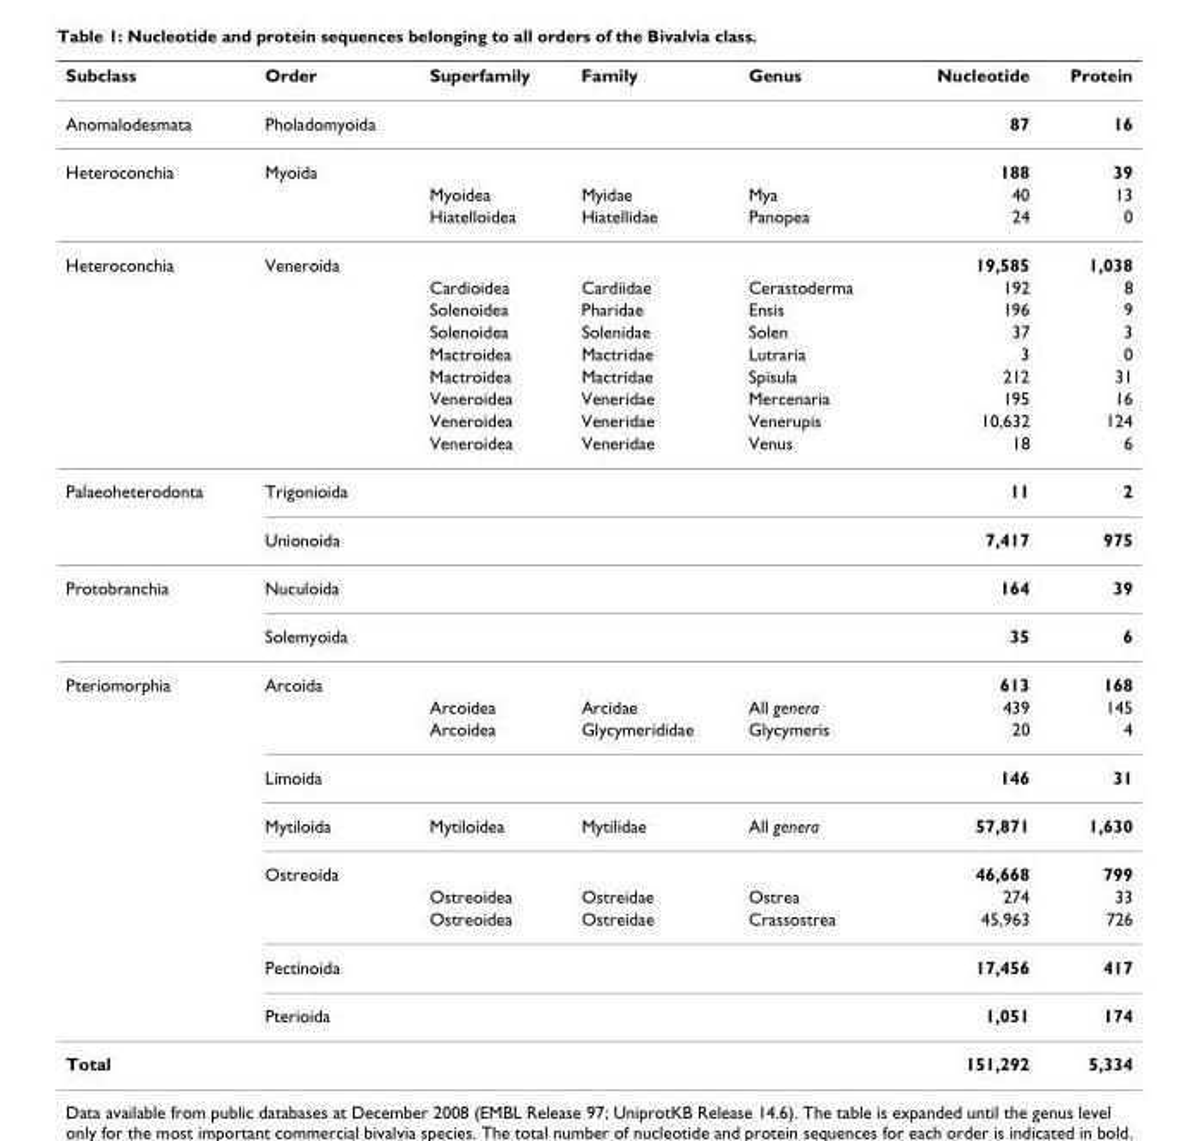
<table><thead><tr><td>Subclass</td><td>Order</td><td>Superfamily</td><td>Family</td><td>Genus</td><td>Nucleotide</td><td>Protein</td></tr></thead><tbody><tr><td>Anomalodesmata</td><td>Pholadomyoida</td><td></td><td></td><td></td><td>87</td><td>16</td></tr><tr><td rowspan="3">Heteroconchia</td><td>Myoida</td><td></td><td></td><td></td><td>188</td><td>39</td></tr><tr><td></td><td>Myoidea</td><td>Myidae</td><td>Mya</td><td>40</td><td>13</td></tr><tr><td></td><td>Hiatelloidea</td><td>Hiatellidae</td><td>Panopea</td><td>24</td><td>0</td></tr><tr><td rowspan="9">Heteroconchia</td><td>Veneroida</td><td></td><td></td><td></td><td>19,585</td><td>1,038</td></tr><tr><td></td><td>Cardioidea</td><td>Cardiidae</td><td>Cerastoderma</td><td>192</td><td>8</td></tr><tr><td></td><td>Solenoidea</td><td>Pharidae</td><td>Ensis</td><td>196</td><td>9</td></tr><tr><td></td><td>Solenoidea</td><td>Solenidae</td><td>Solen</td><td>37</td><td>3</td></tr><tr><td></td><td>Mactroidea</td><td>Mactridae</td><td>Lutraria</td><td>3</td><td>0</td></tr><tr><td></td><td>Mactroidea</td><td>Mactridae</td><td>Spisula</td><td>212</td><td>31</td></tr><tr><td></td><td>Veneroidea</td><td>Veneridae</td><td>Mercenaria</td><td>195</td><td>16</td></tr><tr><td></td><td>Veneroidea</td><td>Veneridae</td><td>Venerupis</td><td>10,632</td><td>124</td></tr><tr><td></td><td>Veneroidea</td><td>Veneridae</td><td>Venus</td><td>18</td><td>6</td></tr><tr><td rowspan="2">Palaeoheterodonta</td><td>Trigonioida</td><td></td><td></td><td></td><td>11</td><td>2</td></tr><tr><td>Unionoida</td><td></td><td></td><td></td><td>7,417</td><td>975</td></tr><tr><td rowspan="2">Protobranchia</td><td>Nuculoida</td><td></td><td></td><td></td><td>164</td><td>39</td></tr><tr><td>Solemyoida</td><td></td><td></td><td></td><td>35</td><td>6</td></tr><tr><td rowspan="10">Pteriomorphia</td><td>Arcoida</td><td></td><td></td><td></td><td>613</td><td>168</td></tr><tr><td></td><td>Arcoidea</td><td>Arcidae</td><td>All genera</td><td>439</td><td>145</td></tr><tr><td></td><td>Arcoidea</td><td>Glycymerididae</td><td>Glycymeris</td><td>20</td><td>4</td></tr><tr><td>Limoida</td><td></td><td></td><td></td><td>146</td><td>31</td></tr><tr><td>Mytiloida</td><td>Mytiloidea</td><td>Mytilidae</td><td>All genera</td><td>57,871</td><td>1,630</td></tr><tr><td>Ostreoida</td><td></td><td></td><td></td><td>46,668</td><td>799</td></tr><tr><td></td><td>Ostreoidea</td><td>Ostreidae</td><td>Ostrea</td><td>274</td><td>33</td></tr><tr><td></td><td>Ostreoidea</td><td>Ostreidae</td><td>Crassostrea</td><td>45,963</td><td>726</td></tr><tr><td>Pectinoida</td><td></td><td></td><td></td><td>17,456</td><td>417</td></tr><tr><td>Pterioida</td><td></td><td></td><td></td><td>1,051</td><td>174</td></tr><tr><td>Total</td><td></td><td></td><td></td><td></td><td>151,292</td><td>5,334</td></tr></tbody></table>